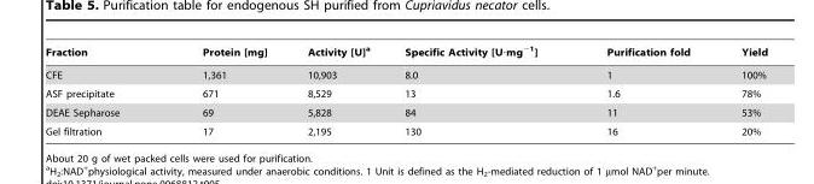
<table><thead><tr><td>Fraction</td><td>Protein [mg]</td><td>Activity [U]<sup>a</sup></td><td>Specific Activity [U·mg<sup>−1</sup>]</td><td>Purification fold</td><td>Yield</td></tr></thead><tbody><tr><td>CFE</td><td>1,361</td><td>10,903</td><td>8.0</td><td>1</td><td>100%</td></tr><tr><td>ASF precipitate</td><td>671</td><td>8,529</td><td>13</td><td>1.6</td><td>78%</td></tr><tr><td>DEAE Sepharose</td><td>69</td><td>5,828</td><td>84</td><td>11</td><td>53%</td></tr><tr><td>Gel filtration</td><td>17</td><td>2,195</td><td>130</td><td>16</td><td>20%</td></tr></tbody></table>